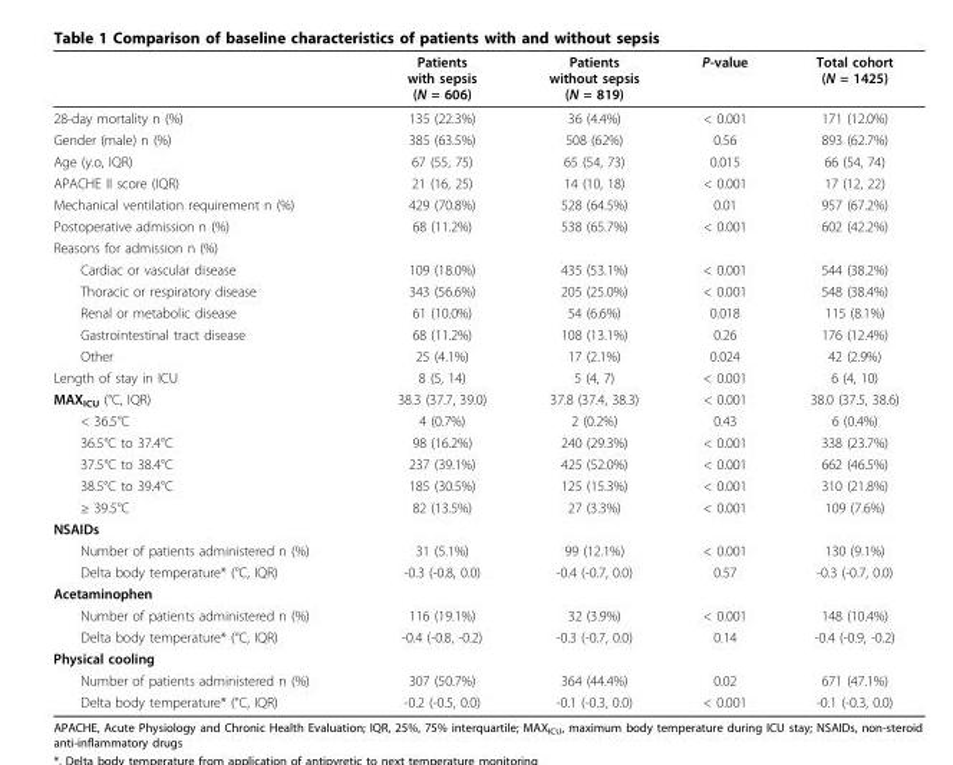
<table><thead><tr><td></td><td>Patients with sepsis (N = 606)</td><td>Patients without sepsis (N = 819)</td><td>P-value</td><td>Total cohort (N = 1425)</td></tr></thead><tbody><tr><td>28-day mortality n (%)</td><td>135 (22.3%)</td><td>36 (4.4%)</td><td>&lt; 0.001</td><td>171 (12.0%)</td></tr><tr><td>Gender (male) n (%)</td><td>385 (63.5%)</td><td>508 (62%)</td><td>0.56</td><td>893 (62.7%)</td></tr><tr><td>Age (y.o, IQR)</td><td>67 (55, 75)</td><td>65 (54, 73)</td><td>0.015</td><td>66 (54, 74)</td></tr><tr><td>APACHE II score (IQR)</td><td>21 (16, 25)</td><td>14 (10, 18)</td><td>&lt; 0.001</td><td>17 (12, 22)</td></tr><tr><td>Mechanical ventilation requirement n (%)</td><td>429 (70.8%)</td><td>528 (64.5%)</td><td>0.01</td><td>957 (67.2%)</td></tr><tr><td>Postoperative admission n (%)</td><td>68 (11.2%)</td><td>538 (65.7%)</td><td>&lt; 0.001</td><td>602 (42.2%)</td></tr><tr><td colspan="5">Reasons for admission n (%)</td></tr><tr><td>Cardiac or vascular disease</td><td>109 (18.0%)</td><td>435 (53.1%)</td><td>&lt; 0.001</td><td>544 (38.2%)</td></tr><tr><td>Thoracic or respiratory disease</td><td>343 (56.6%)</td><td>205 (25.0%)</td><td>&lt; 0.001</td><td>548 (38.4%)</td></tr><tr><td>Renal or metabolic disease</td><td>61 (10.0%)</td><td>54 (6.6%)</td><td>0.018</td><td>115 (8.1%)</td></tr><tr><td>Gastrointestinal tract disease</td><td>68 (11.2%)</td><td>108 (13.1%)</td><td>0.26</td><td>176 (12.4%)</td></tr><tr><td>Other</td><td>25 (4.1%)</td><td>17 (2.1%)</td><td>0.024</td><td>42 (2.9%)</td></tr><tr><td>Length of stay in ICU</td><td>8 (5, 14)</td><td>5 (4, 7)</td><td>&lt; 0.001</td><td>6 (4, 10)</td></tr><tr><td>MAX<sub>ICU</sub> (°C, IQR)</td><td>38.3 (37.7, 39.0)</td><td>37.8 (37.4, 38.3)</td><td>&lt; 0.001</td><td>38.0 (37.5, 38.6)</td></tr><tr><td>&lt; 36.5°C</td><td>4 (0.7%)</td><td>2 (0.2%)</td><td>0.43</td><td>6 (0.4%)</td></tr><tr><td>36.5°C to 37.4°C</td><td>98 (16.2%)</td><td>240 (29.3%)</td><td>&lt; 0.001</td><td>338 (23.7%)</td></tr><tr><td>37.5°C to 38.4°C</td><td>237 (39.1%)</td><td>425 (52.0%)</td><td>&lt; 0.001</td><td>662 (46.5%)</td></tr><tr><td>38.5°C to 39.4°C</td><td>185 (30.5%)</td><td>125 (15.3%)</td><td>&lt; 0.001</td><td>310 (21.8%)</td></tr><tr><td>≥ 39.5°C</td><td>82 (13.5%)</td><td>27 (3.3%)</td><td>&lt; 0.001</td><td>109 (7.6%)</td></tr><tr><td colspan="5">NSAIDs</td></tr><tr><td>Number of patients administered n (%)</td><td>31 (5.1%)</td><td>99 (12.1%)</td><td>&lt; 0.001</td><td>130 (9.1%)</td></tr><tr><td>Delta body temperature* (°C, IQR)</td><td>-0.3 (-0.8, 0.0)</td><td>-0.4 (-0.7, 0.0)</td><td>0.57</td><td>-0.3 (-0.7, 0.0)</td></tr><tr><td colspan="5">Acetaminophen</td></tr><tr><td>Number of patients administered n (%)</td><td>116 (19.1%)</td><td>32 (3.9%)</td><td>&lt; 0.001</td><td>148 (10.4%)</td></tr><tr><td>Delta body temperature* (°C, IQR)</td><td>-0.4 (-0.8, -0.2)</td><td>-0.3 (-0.7, 0.0)</td><td>0.14</td><td>-0.4 (-0.9, -0.2)</td></tr><tr><td colspan="5">Physical cooling</td></tr><tr><td>Number of patients administered n (%)</td><td>307 (50.7%)</td><td>364 (44.4%)</td><td>0.02</td><td>671 (47.1%)</td></tr><tr><td>Delta body temperature* (°C, IQR)</td><td>-0.2 (-0.5, 0.0)</td><td>-0.1 (-0.3, 0.0)</td><td>&lt; 0.001</td><td>-0.1 (-0.3, 0.0)</td></tr></tbody></table>